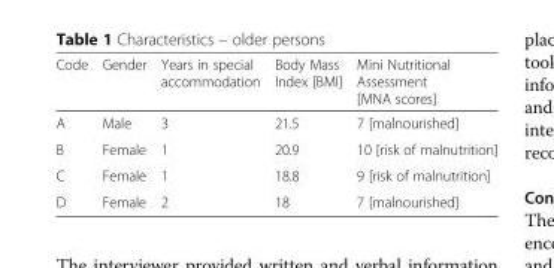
<table><thead><tr><td>Code</td><td>Gender</td><td>Years in special accommodation</td><td>Body Mass Index [BMI]</td><td>Mini Nutritional Assessment [MNA scores]</td></tr></thead><tbody><tr><td>A</td><td>Male</td><td>3</td><td>21.5</td><td>7 [malnourished]</td></tr><tr><td>B</td><td>Female</td><td>1</td><td>20.9</td><td>10 [risk of malnutrition]</td></tr><tr><td>C</td><td>Female</td><td>1</td><td>18.8</td><td>9 [risk of malnutrition]</td></tr><tr><td>D</td><td>Female</td><td>2</td><td>18</td><td>7 [malnourished]</td></tr></tbody></table>